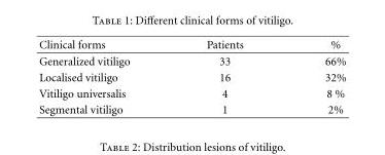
<table><thead><tr><td>Clinical forms</td><td>Patients</td><td>%</td></tr></thead><tbody><tr><td>Generalized vitiligo</td><td>33</td><td>66%</td></tr><tr><td>Localised vitiligo</td><td>16</td><td>32%</td></tr><tr><td>Vitiligo universalis</td><td>4</td><td>8 %</td></tr><tr><td>Segmental vitiligo</td><td>1</td><td>2%</td></tr></tbody></table>